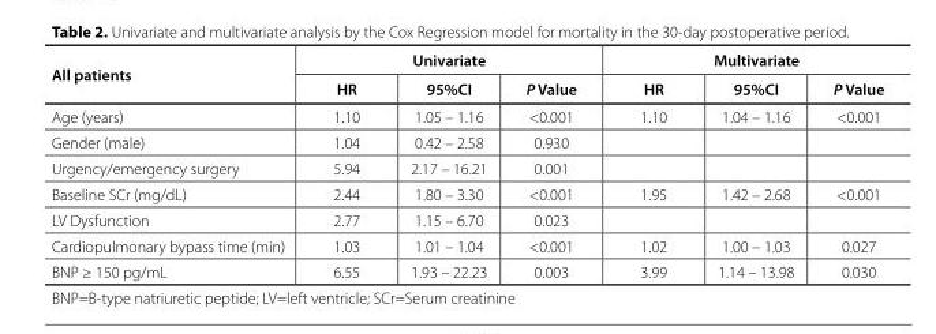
<table><thead><tr><td rowspan="2">All patients</td><td colspan="3">Univariate</td><td colspan="3">Multivariate</td></tr><tr><td>HR</td><td>95%CI</td><td>P Value</td><td>HR</td><td>95%CI</td><td>P Value</td></tr></thead><tbody><tr><td>Age (years)</td><td>1.10</td><td>1.05 – 1.16</td><td>&lt;0.001</td><td>1.10</td><td>1.04 – 1.16</td><td>&lt;0.001</td></tr><tr><td>Gender (male)</td><td>1.04</td><td>0.42 – 2.58</td><td>0.930</td><td></td><td></td><td></td></tr><tr><td>Urgency/emergency surgery</td><td>5.94</td><td>2.17 – 16.21</td><td>0.001</td><td></td><td></td><td></td></tr><tr><td>Baseline SCr (mg/dL)</td><td>2.44</td><td>1.80 – 3.30</td><td>&lt;0.001</td><td>1.95</td><td>1.42 – 2.68</td><td>&lt;0.001</td></tr><tr><td>LV Dysfunction</td><td>2.77</td><td>1.15 – 6.70</td><td>0.023</td><td></td><td></td><td></td></tr><tr><td>Cardiopulmonary bypass time (min)</td><td>1.03</td><td>1.01 – 1.04</td><td>&lt;0.001</td><td>1.02</td><td>1.00 – 1.03</td><td>0.027</td></tr><tr><td>BNP ≥ 150 pg/mL</td><td>6.55</td><td>1.93 – 22.23</td><td>0.003</td><td>3.99</td><td>1.14 – 13.98</td><td>0.030</td></tr></tbody></table>